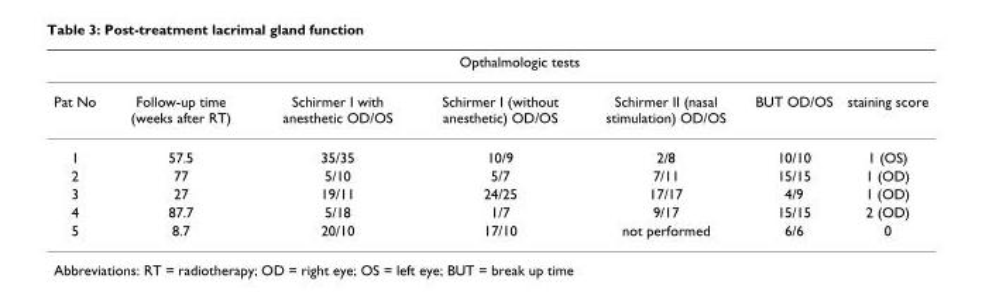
<table><thead><tr><td rowspan="2">Pat No</td><td colspan="6">Opthalmologic tests</td></tr><tr><td>Follow-up time (weeks after RT)</td><td>Schirmer I with anesthetic OD/OS</td><td>Schirmer I (without anesthetic) OD/OS</td><td>Schirmer II (nasal stimulation) OD/OS</td><td>BUT OD/OS</td><td>staining score</td></tr></thead><tbody><tr><td>1</td><td>57.5</td><td>35/35</td><td>10/9</td><td>2/8</td><td>10/10</td><td>1 (OS)</td></tr><tr><td>2</td><td>77</td><td>5/10</td><td>5/7</td><td>7/11</td><td>15/15</td><td>1 (OD)</td></tr><tr><td>3</td><td>27</td><td>19/11</td><td>24/25</td><td>17/17</td><td>4/9</td><td>1 (OD)</td></tr><tr><td>4</td><td>87.7</td><td>5/18</td><td>1/7</td><td>9/17</td><td>15/15</td><td>2 (OD)</td></tr><tr><td>5</td><td>8.7</td><td>20/10</td><td>17/10</td><td>not performed</td><td>6/6</td><td>0</td></tr></tbody></table>